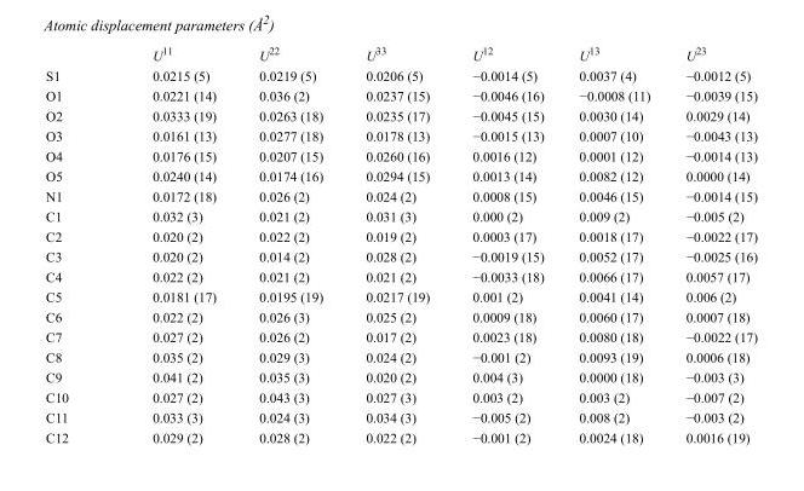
<table><thead><tr><td></td><td>U<sup>11</sup></td><td>U<sup>22</sup></td><td>U<sup>33</sup></td><td>U<sup>12</sup></td><td>U<sup>13</sup></td><td>U<sup>23</sup></td></tr></thead><tbody><tr><td>S1</td><td>0.0215 (5)</td><td>0.0219 (5)</td><td>0.0206 (5)</td><td>−0.0014 (5)</td><td>0.0037 (4)</td><td>−0.0012 (5)</td></tr><tr><td>O1</td><td>0.0221 (14)</td><td>0.036 (2)</td><td>0.0237 (15)</td><td>−0.0046 (16)</td><td>−0.0008 (11)</td><td>−0.0039 (15)</td></tr><tr><td>O2</td><td>0.0333 (19)</td><td>0.0263 (18)</td><td>0.0235 (17)</td><td>−0.0045 (15)</td><td>0.0030 (14)</td><td>0.0029 (14)</td></tr><tr><td>O3</td><td>0.0161 (13)</td><td>0.0277 (18)</td><td>0.0178 (13)</td><td>−0.0015 (13)</td><td>0.0007 (10)</td><td>−0.0043 (13)</td></tr><tr><td>O4</td><td>0.0176 (15)</td><td>0.0207 (15)</td><td>0.0260 (16)</td><td>0.0016 (12)</td><td>0.0001 (12)</td><td>−0.0014 (13)</td></tr><tr><td>O5</td><td>0.0240 (14)</td><td>0.0174 (16)</td><td>0.0294 (15)</td><td>0.0013 (14)</td><td>0.0082 (12)</td><td>0.0000 (14)</td></tr><tr><td>N1</td><td>0.0172 (18)</td><td>0.026 (2)</td><td>0.024 (2)</td><td>0.0008 (15)</td><td>0.0046 (15)</td><td>−0.0014 (15)</td></tr><tr><td>C1</td><td>0.032 (3)</td><td>0.021 (2)</td><td>0.031 (3)</td><td>0.000 (2)</td><td>0.009 (2)</td><td>−0.005 (2)</td></tr><tr><td>C2</td><td>0.020 (2)</td><td>0.022 (2)</td><td>0.019 (2)</td><td>0.0003 (17)</td><td>0.0018 (17)</td><td>−0.0022 (17)</td></tr><tr><td>C3</td><td>0.020 (2)</td><td>0.014 (2)</td><td>0.028 (2)</td><td>−0.0019 (15)</td><td>0.0052 (17)</td><td>−0.0025 (16)</td></tr><tr><td>C4</td><td>0.022 (2)</td><td>0.021 (2)</td><td>0.021 (2)</td><td>−0.0033 (18)</td><td>0.0066 (17)</td><td>0.0057 (17)</td></tr><tr><td>C5</td><td>0.0181 (17)</td><td>0.0195 (19)</td><td>0.0217 (19)</td><td>0.001 (2)</td><td>0.0041 (14)</td><td>0.006 (2)</td></tr><tr><td>C6</td><td>0.022 (2)</td><td>0.026 (3)</td><td>0.025 (2)</td><td>0.0009 (18)</td><td>0.0060 (17)</td><td>0.0007 (18)</td></tr><tr><td>C7</td><td>0.027 (2)</td><td>0.026 (2)</td><td>0.017 (2)</td><td>0.0023 (18)</td><td>0.0080 (18)</td><td>−0.0022 (17)</td></tr><tr><td>C8</td><td>0.035 (2)</td><td>0.029 (3)</td><td>0.024 (2)</td><td>−0.001 (2)</td><td>0.0093 (19)</td><td>0.0006 (18)</td></tr><tr><td>C9</td><td>0.041 (2)</td><td>0.035 (3)</td><td>0.020 (2)</td><td>0.004 (3)</td><td>0.0000 (18)</td><td>−0.003 (3)</td></tr><tr><td>C10</td><td>0.027 (2)</td><td>0.043 (3)</td><td>0.027 (3)</td><td>0.003 (2)</td><td>0.003 (2)</td><td>−0.007 (2)</td></tr><tr><td>C11</td><td>0.033 (3)</td><td>0.024 (3)</td><td>0.034 (3)</td><td>−0.005 (2)</td><td>0.008 (2)</td><td>−0.003 (2)</td></tr><tr><td>C12</td><td>0.029 (2)</td><td>0.028 (2)</td><td>0.022 (2)</td><td>−0.001 (2)</td><td>0.0024 (18)</td><td>0.0016 (19)</td></tr></tbody></table>